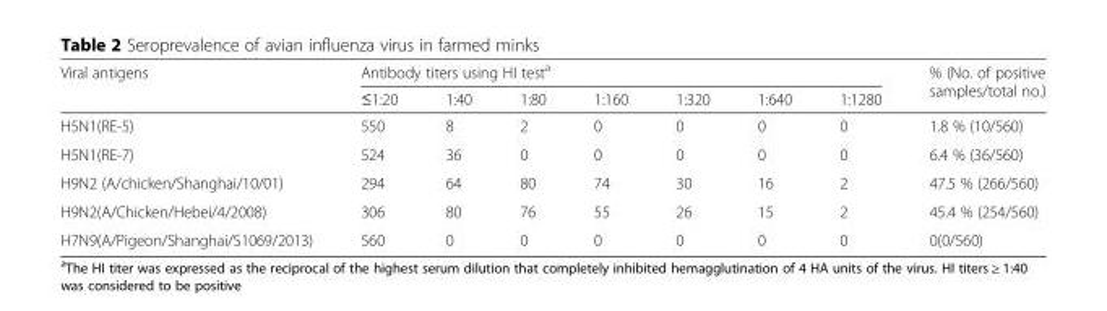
<table><thead><tr><td rowspan="2">Viral antigens</td><td colspan="7">Antibody titers using HI test<sup>a</sup></td><td rowspan="2">% (No. of positive samples/total no.)</td></tr><tr><td>≤1:20</td><td>1:40</td><td>1:80</td><td>1:160</td><td>1:320</td><td>1:640</td><td>1:1280</td></tr></thead><tbody><tr><td>H5N1(RE-5)</td><td>550</td><td>8</td><td>2</td><td>0</td><td>0</td><td>0</td><td>0</td><td>1.8 % (10/560)</td></tr><tr><td>H5N1(RE-7)</td><td>524</td><td>36</td><td>0</td><td>0</td><td>0</td><td>0</td><td>0</td><td>6.4 % (36/560)</td></tr><tr><td>H9N2 (A/chicken/Shanghai/10/01)</td><td>294</td><td>64</td><td>80</td><td>74</td><td>30</td><td>16</td><td>2</td><td>47.5 % (266/560)</td></tr><tr><td>H9N2(A/Chicken/Hebei/4/2008)</td><td>306</td><td>80</td><td>76</td><td>55</td><td>26</td><td>15</td><td>2</td><td>45.4 % (254/560)</td></tr><tr><td>H7N9(A/Pigeon/Shanghai/S1069/2013)</td><td>560</td><td>0</td><td>0</td><td>0</td><td>0</td><td>0</td><td>0</td><td>0(0/560)</td></tr></tbody></table>